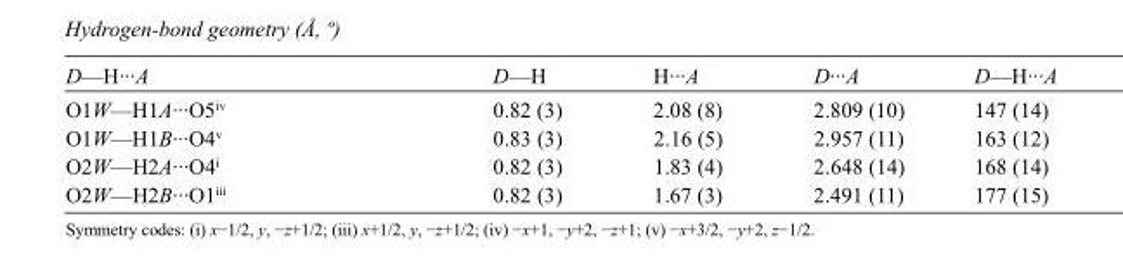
<table><tbody><tr><td>D—H···A</td><td>D—H</td><td>H···A</td><td>D···A</td><td>D—H···A</td></tr><tr><td>O1W—H1A···O5<sup>iv</sup></td><td>0.82 (3)</td><td>2.08 (8)</td><td>2.809 (10)</td><td>147 (14)</td></tr><tr><td>O1W—H1B···O4<sup>v</sup></td><td>0.83 (3)</td><td>2.16 (5)</td><td>2.957 (11)</td><td>163 (12)</td></tr><tr><td>O2W—H2A···O4<sup>i</sup></td><td>0.82 (3)</td><td>1.83 (4)</td><td>2.648 (14)</td><td>168 (14)</td></tr><tr><td>O2W—H2B···O1<sup>iii</sup></td><td>0.82 (3)</td><td>1.67 (3)</td><td>2.491 (11)</td><td>177 (15)</td></tr></tbody></table>